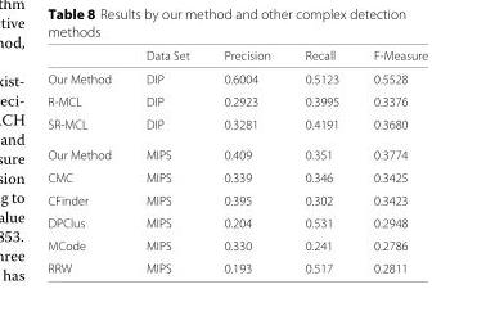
<table><thead><tr><td></td><td>Data Set</td><td>Precision</td><td>Recall</td><td>F-Measure</td></tr></thead><tbody><tr><td>Our Method</td><td>DIP</td><td>0.6004</td><td>0.5123</td><td>0.5528</td></tr><tr><td>R-MCL</td><td>DIP</td><td>0.2923</td><td>0.3995</td><td>0.3376</td></tr><tr><td>SR-MCL</td><td>DIP</td><td>0.3281</td><td>0.4191</td><td>0.3680</td></tr><tr><td>Our Method</td><td>MIPS</td><td>0.409</td><td>0.351</td><td>0.3774</td></tr><tr><td>CMC</td><td>MIPS</td><td>0.339</td><td>0.346</td><td>0.3425</td></tr><tr><td>CFinder</td><td>MIPS</td><td>0.395</td><td>0.302</td><td>0.3423</td></tr><tr><td>DPClus</td><td>MIPS</td><td>0.204</td><td>0.531</td><td>0.2948</td></tr><tr><td>MCode</td><td>MIPS</td><td>0.330</td><td>0.241</td><td>0.2786</td></tr><tr><td>RRW</td><td>MIPS</td><td>0.193</td><td>0.517</td><td>0.2811</td></tr></tbody></table>